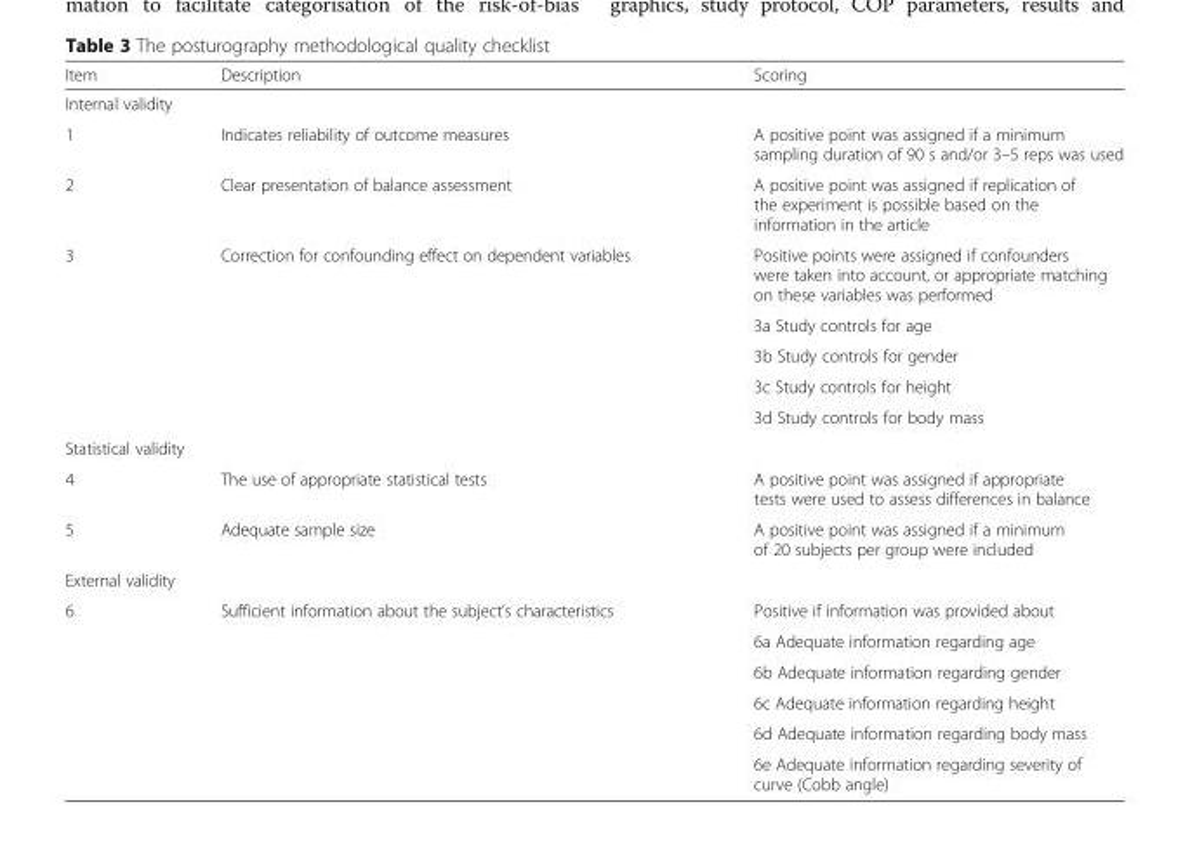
<table><thead><tr><td>Item</td><td>Description</td><td>Scoring</td></tr></thead><tbody><tr><td colspan="3">Internal validity</td></tr><tr><td>1</td><td>Indicates reliability of outcome measures</td><td>A positive point was assigned if a minimum sampling duration of 90 s and/or 3–5 reps was used</td></tr><tr><td>2</td><td>Clear presentation of balance assessment</td><td>A positive point was assigned if replication of the experiment is possible based on the information in the article</td></tr><tr><td rowspan="5">3</td><td rowspan="5">Correction for confounding effect on dependent variables</td><td>Positive points were assigned if confounders were taken into account, or appropriate matching on these variables was performed</td></tr><tr><td>3a Study controls for age</td></tr><tr><td>3b Study controls for gender</td></tr><tr><td>3c Study controls for height</td></tr><tr><td>3d Study controls for body mass</td></tr><tr><td colspan="3">Statistical validity</td></tr><tr><td>4</td><td>The use of appropriate statistical tests</td><td>A positive point was assigned if appropriate tests were used to assess differences in balance</td></tr><tr><td>5</td><td>Adequate sample size</td><td>A positive point was assigned if a minimum of 20 subjects per group were included</td></tr><tr><td colspan="3">External validity</td></tr><tr><td rowspan="6">6</td><td rowspan="6">Sufficient information about the subject’s characteristics</td><td>Positive if information was provided about</td></tr><tr><td>6a Adequate information regarding age</td></tr><tr><td>6b Adequate information regarding gender</td></tr><tr><td>6c Adequate information regarding height</td></tr><tr><td>6d Adequate information regarding body mass</td></tr><tr><td>6e Adequate information regarding severity of curve (Cobb angle)</td></tr></tbody></table>